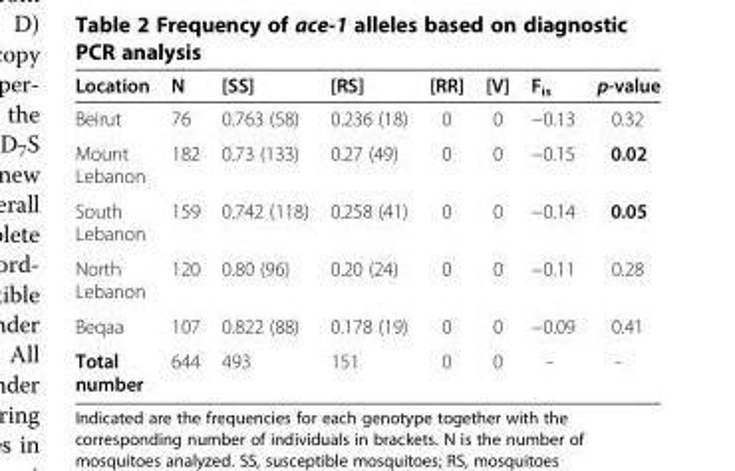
<table><thead><tr><td>Location</td><td>N</td><td>[SS]</td><td>[RS]</td><td>[RR]</td><td>[V]</td><td>F<sub>is</sub></td><td>p-value</td></tr></thead><tbody><tr><td>Beirut</td><td>76</td><td>0.763 (58)</td><td>0.236 (18)</td><td>0</td><td>0</td><td>−0.13</td><td>0.32</td></tr><tr><td>Mount Lebanon</td><td>182</td><td>0.73 (133)</td><td>0.27 (49)</td><td>0</td><td>0</td><td>−0.15</td><td>0.02</td></tr><tr><td>South Lebanon</td><td>159</td><td>0.742 (118)</td><td>0.258 (41)</td><td>0</td><td>0</td><td>−0.14</td><td>0.05</td></tr><tr><td>North Lebanon</td><td>120</td><td>0.80 (96)</td><td>0.20 (24)</td><td>0</td><td>0</td><td>−0.11</td><td>0.28</td></tr><tr><td>Beqaa</td><td>107</td><td>0.822 (88)</td><td>0.178 (19)</td><td>0</td><td>0</td><td>−0.09</td><td>0.41</td></tr><tr><td>Total number</td><td>644</td><td>493</td><td>151</td><td>0</td><td>0</td><td>-</td><td>-</td></tr></tbody></table>